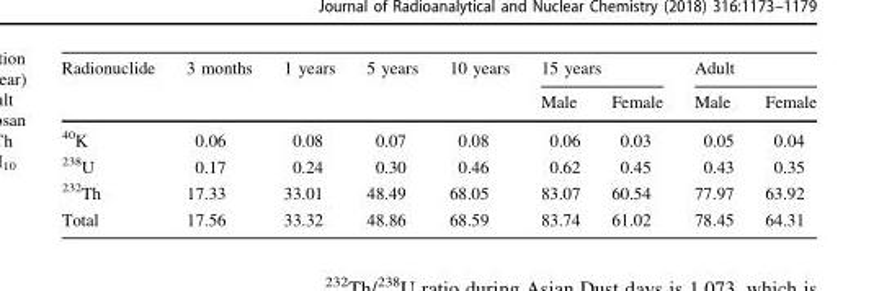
<table><thead><tr><td rowspan="2">Radionuclide</td><td rowspan="2">3 months</td><td rowspan="2">1 years</td><td rowspan="2">5 years</td><td rowspan="2">10 years</td><td colspan="2">15 years</td><td colspan="2">Adult</td></tr><tr><td>Male</td><td>Female</td><td>Male</td><td>Female</td></tr></thead><tbody><tr><td><sup>40</sup>K</td><td>0.06</td><td>0.08</td><td>0.07</td><td>0.08</td><td>0.06</td><td>0.03</td><td>0.05</td><td>0.04</td></tr><tr><td><sup>238</sup>U</td><td>0.17</td><td>0.24</td><td>0.30</td><td>0.46</td><td>0.62</td><td>0.45</td><td>0.43</td><td>0.35</td></tr><tr><td><sup>232</sup>Th</td><td>17.33</td><td>33.01</td><td>48.49</td><td>68.05</td><td>83.07</td><td>60.54</td><td>77.97</td><td>63.92</td></tr><tr><td>Total</td><td>17.56</td><td>33.32</td><td>48.86</td><td>68.59</td><td>83.74</td><td>61.02</td><td>78.45</td><td>64.31</td></tr></tbody></table>